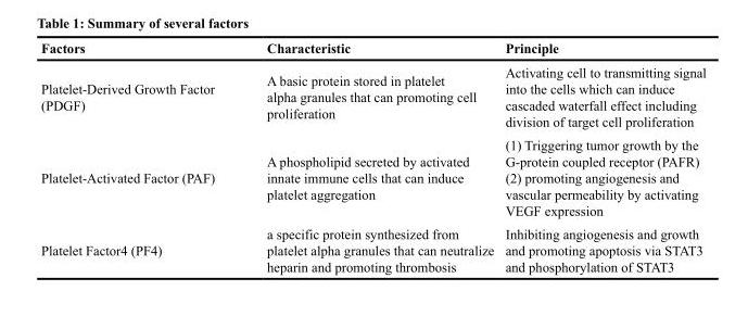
<table><thead><tr><td>Factors</td><td>Characteristic</td><td>Principle</td></tr></thead><tbody><tr><td>Platelet-Derived Growth Factor (PDGF)</td><td>A basic protein stored in platelet alpha granules that can promoting cell proliferation</td><td>Activating cell to transmitting signal into the cells which can induce cascaded waterfall effect including division of target cell proliferation</td></tr><tr><td>Platelet-Activated Factor (PAF)</td><td>A phospholipid secreted by activated innate immune cells that can induce platelet aggregation</td><td>(1) Triggering tumor growth by the G-protein coupled receptor (PAFR) (2) promoting angiogenesis and vascular permeability by activating VEGF expression</td></tr><tr><td>Platelet Factor4 (PF4)</td><td>a specific protein synthesized from platelet alpha granules that can neutralize heparin and promoting thrombosis</td><td>Inhibiting angiogenesis and growth and promoting apoptosis via STAT3 and phosphorylation of STAT3</td></tr></tbody></table>